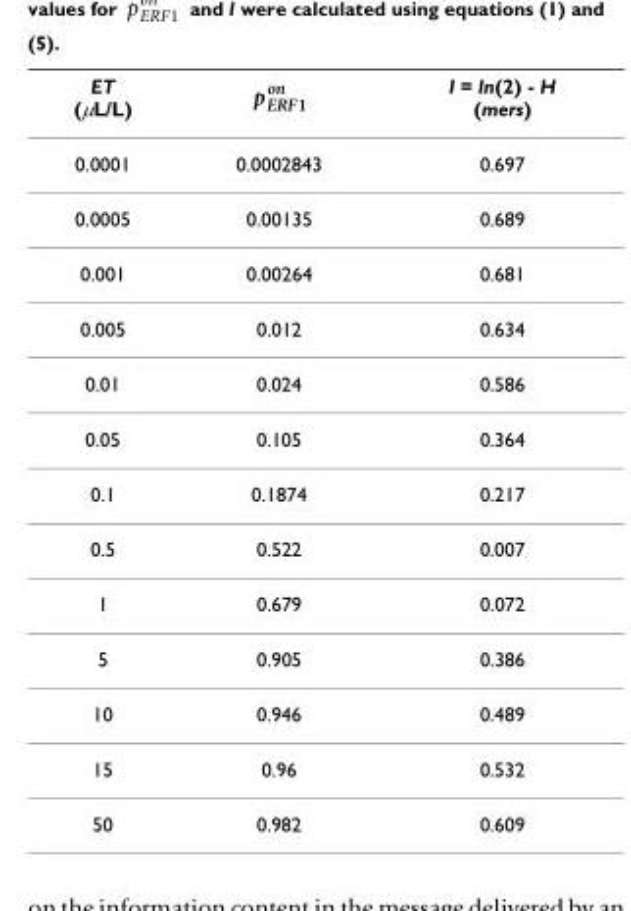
<table><thead><tr><td>ET (μL/L)</td><td>pERF on 1</td><td>I = ln(2) - H (mers)</td></tr></thead><tbody><tr><td>0.0001</td><td>0.0002843</td><td>0.697</td></tr><tr><td>0.0005</td><td>0.00135</td><td>0.689</td></tr><tr><td>0.001</td><td>0.00264</td><td>0.681</td></tr><tr><td>0.005</td><td>0.012</td><td>0.634</td></tr><tr><td>0.01</td><td>0.024</td><td>0.586</td></tr><tr><td>0.05</td><td>0.105</td><td>0.364</td></tr><tr><td>0.1</td><td>0.1874</td><td>0.217</td></tr><tr><td>0.5</td><td>0.522</td><td>0.007</td></tr><tr><td>1</td><td>0.679</td><td>0.072</td></tr><tr><td>5</td><td>0.905</td><td>0.386</td></tr><tr><td>10</td><td>0.946</td><td>0.489</td></tr><tr><td>15</td><td>0.96</td><td>0.532</td></tr><tr><td>50</td><td>0.982</td><td>0.609</td></tr></tbody></table>